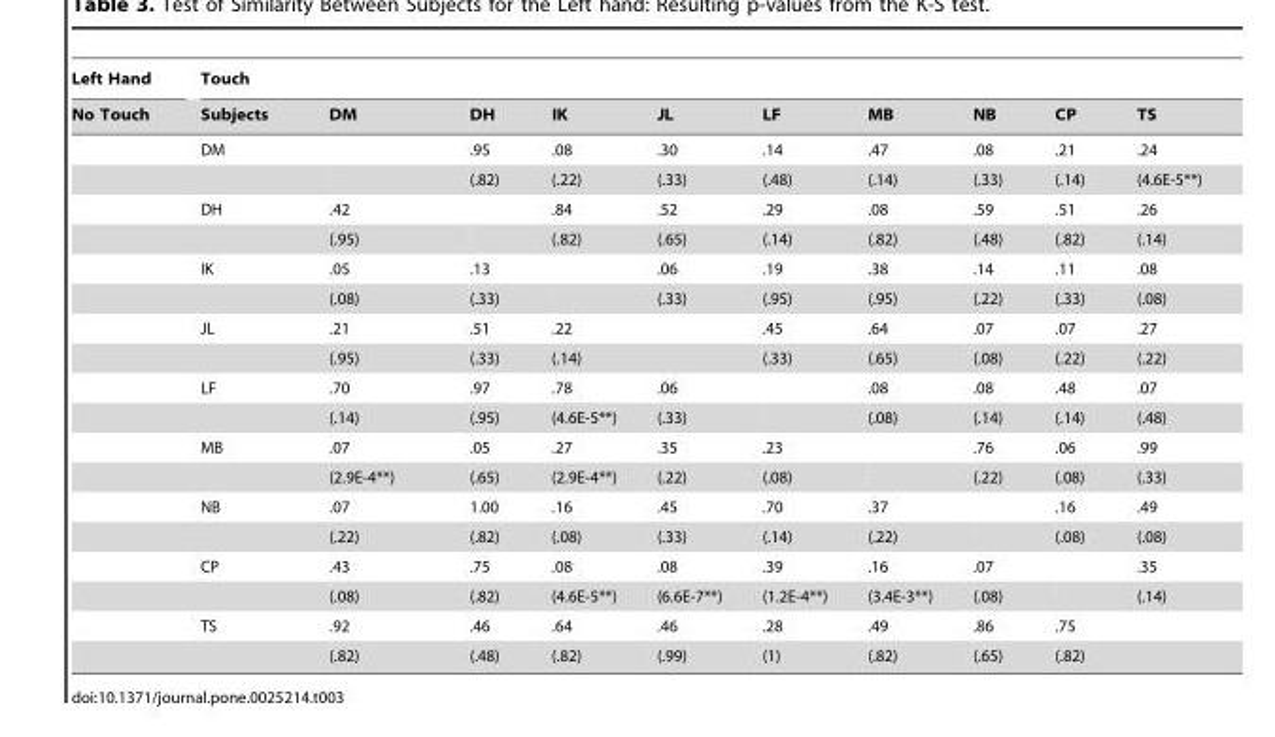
<table><thead><tr><td rowspan="2">Left Hand No Touch</td><td colspan="10">Touch</td></tr><tr><td>Subjects</td><td>DM</td><td>DH</td><td>IK</td><td>JL</td><td>LF</td><td>MB</td><td>NB</td><td>CP</td><td>TS</td></tr></thead><tbody><tr><td></td><td>DM</td><td></td><td>.95</td><td>.08</td><td>.30</td><td>.14</td><td>.47</td><td>.08</td><td>.21</td><td>.24</td></tr><tr><td></td><td></td><td></td><td>(.82)</td><td>(.22)</td><td>(.33)</td><td>(.48)</td><td>(.14)</td><td>(.33)</td><td>(.14)</td><td>(4.6E-5**)</td></tr><tr><td></td><td>DH</td><td>.42</td><td></td><td>.84</td><td>.52</td><td>.29</td><td>.08</td><td>.59</td><td>.51</td><td>.26</td></tr><tr><td></td><td></td><td>(.95)</td><td></td><td>(.82)</td><td>(.65)</td><td>(.14)</td><td>(.82)</td><td>(.48)</td><td>(.82)</td><td>(.14)</td></tr><tr><td></td><td>IK</td><td>.05</td><td>.13</td><td></td><td>.06</td><td>.19</td><td>.38</td><td>.14</td><td>.11</td><td>.08</td></tr><tr><td></td><td></td><td>(.08)</td><td>(.33)</td><td></td><td>(.33)</td><td>(.95)</td><td>(.95)</td><td>(.22)</td><td>(.33)</td><td>(.08)</td></tr><tr><td></td><td>JL</td><td>.21</td><td>.51</td><td>.22</td><td></td><td>.45</td><td>.64</td><td>.07</td><td>.07</td><td>.27</td></tr><tr><td></td><td></td><td>(.95)</td><td>(.33)</td><td>(.14)</td><td></td><td>(.33)</td><td>(.65)</td><td>(.08)</td><td>(.22)</td><td>(.22)</td></tr><tr><td></td><td>LF</td><td>.70</td><td>.97</td><td>.78</td><td>.06</td><td></td><td>.08</td><td>.08</td><td>.48</td><td>.07</td></tr><tr><td></td><td></td><td>(.14)</td><td>(.95)</td><td>(4.6E-5**)</td><td>(.33)</td><td></td><td>(.08)</td><td>(.14)</td><td>(.14)</td><td>(.48)</td></tr><tr><td></td><td>MB</td><td>.07</td><td>.05</td><td>.27</td><td>.35</td><td>.23</td><td></td><td>.76</td><td>.06</td><td>.99</td></tr><tr><td></td><td></td><td>(2.9E-4**)</td><td>(.65)</td><td>(2.9E-4**)</td><td>(.22)</td><td>(.08)</td><td></td><td>(.22)</td><td>(.08)</td><td>(.33)</td></tr><tr><td></td><td>NB</td><td>.07</td><td>1.00</td><td>.16</td><td>.45</td><td>.70</td><td>.37</td><td></td><td>.16</td><td>.49</td></tr><tr><td></td><td></td><td>(.22)</td><td>(.82)</td><td>(.08)</td><td>(.33)</td><td>(.14)</td><td>(.22)</td><td></td><td>(.08)</td><td>(.08)</td></tr><tr><td></td><td>CP</td><td>.43</td><td>.75</td><td>.08</td><td>.08</td><td>.39</td><td>.16</td><td>.07</td><td></td><td>.35</td></tr><tr><td></td><td></td><td>(.08)</td><td>(.82)</td><td>(4.6E-5**)</td><td>(6.6E-7**)</td><td>(1.2E-4**)</td><td>(3.4E-3**)</td><td>(.08)</td><td></td><td>(.14)</td></tr><tr><td></td><td>TS</td><td>.92</td><td>.46</td><td>.64</td><td>.46</td><td>.28</td><td>.49</td><td>.86</td><td>.75</td><td></td></tr><tr><td></td><td></td><td>(.82)</td><td>(.48)</td><td>(.82)</td><td>(.99)</td><td>(1)</td><td>(.82)</td><td>(.65)</td><td>(.82)</td><td></td></tr></tbody></table>